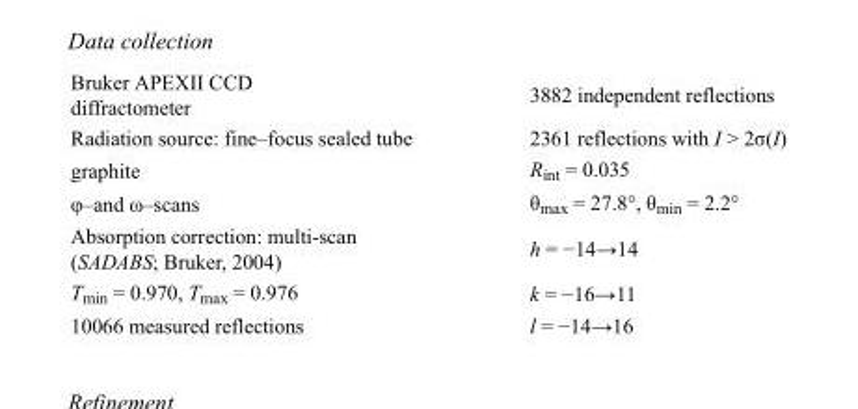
<table><tbody><tr><td>Bruker APEXII CCD diffractometer</td><td>3882 independent reflections</td></tr><tr><td>Radiation source: fine–focus sealed tube</td><td>2361 reflections with I &gt; 2σ(I)</td></tr><tr><td>graphite</td><td>R<sub>int</sub> = 0.035</td></tr><tr><td>φ–and ω–scans</td><td>θ<sub>max</sub> = 27.8°, θ<sub>min</sub> = 2.2°</td></tr><tr><td>Absorption correction: multi-scan (SADABS; Bruker, 2004)</td><td>h = −14→14</td></tr><tr><td>T<sub>min</sub> = 0.970, T<sub>max</sub> = 0.976</td><td>k = −16→11</td></tr><tr><td>10066 measured reflections</td><td>l = −14→16</td></tr></tbody></table>